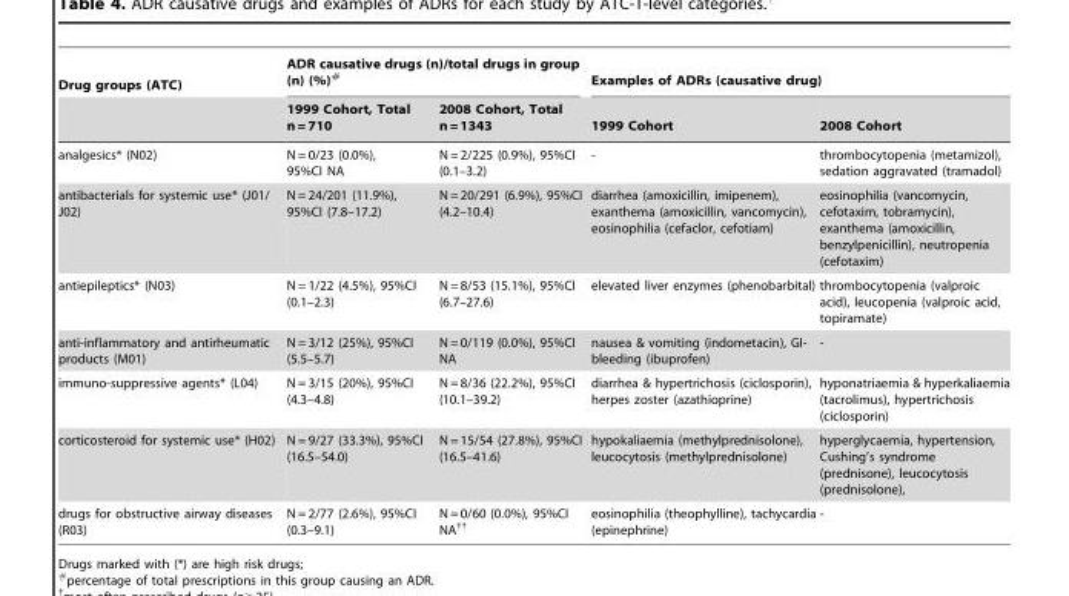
<table><thead><tr><td rowspan="2">Drug groups (ATC)</td><td colspan="2">ADR causative drugs (n)/total drugs in group (n) (%)#</td><td colspan="2">Examples of ADRs (causative drug)</td></tr><tr><td>1999 Cohort, Total n = 710</td><td>2008 Cohort, Total n = 1343</td><td>1999 Cohort</td><td>2008 Cohort</td></tr></thead><tbody><tr><td>analgesics* (N02)</td><td>N = 0/23 (0.0%), 95%CI NA</td><td>N = 2/225 (0.9%), 95%CI (0.1–3.2)</td><td>-</td><td>thrombocytopenia (metamizol), sedation aggravated (tramadol)</td></tr><tr><td>antibacterials for systemic use* (J01/ J02)</td><td>N = 24/201 (11.9%), 95%CI (7.8–17.2)</td><td>N = 20/291 (6.9%), 95%CI (4.2–10.4)</td><td>diarrhea (amoxicillin, imipenem), exanthema (amoxicillin, vancomycin), eosinophilia (cefaclor, cefotiam)</td><td>eosinophilia (vancomycin, cefotaxim, tobramycin), exanthema (amoxicillin, benzylpenicillin), neutropenia (cefotaxim)</td></tr><tr><td>antiepileptics* (N03)</td><td>N = 1/22 (4.5%), 95%CI (0.1–2.3)</td><td>N = 8/53 (15.1%), 95%CI (6.7–27.6)</td><td>elevated liver enzymes (phenobarbital)</td><td>thrombocytopenia (valproic acid), leucopenia (valproic acid, topiramate)</td></tr><tr><td>anti-inflammatory and antirheumatic products (M01)</td><td>N = 3/12 (25%), 95%CI (5.5–5.7)</td><td>N = 0/119 (0.0%), 95%CI NA</td><td>nausea &amp; vomiting (indometacin), GI- bleeding (ibuprofen)</td><td>-</td></tr><tr><td>immuno-suppressive agents* (L04)</td><td>N = 3/15 (20%), 95%CI (4.3–4.8)</td><td>N = 8/36 (22.2%), 95%CI (10.1–39.2)</td><td>diarrhea &amp; hypertrichosis (ciclosporin), herpes zoster (azathioprine)</td><td>hyponatriaemia &amp; hyperkaliaemia (tacrolimus), hypertrichosis (ciclosporin)</td></tr><tr><td>corticosteroid for systemic use* (H02)</td><td>N = 9/27 (33.3%), 95%CI (16.5–54.0)</td><td>N = 15/54 (27.8%), 95%CI (16.5–41.6)</td><td>hypokaliaemia (methylprednisolone), leucocytosis (methylprednisolone)</td><td>hyperglycaemia, hypertension, Cushing’s syndrome (prednisone), leucocytosis (prednisolone),</td></tr><tr><td>drugs for obstructive airway diseases (R03)</td><td>N = 2/77 (2.6%), 95%CI (0.3–9.1)</td><td>N = 0/60 (0.0%), 95%CI NA††</td><td>eosinophilia (theophylline), tachycardia (epinephrine)</td><td>-</td></tr></tbody></table>